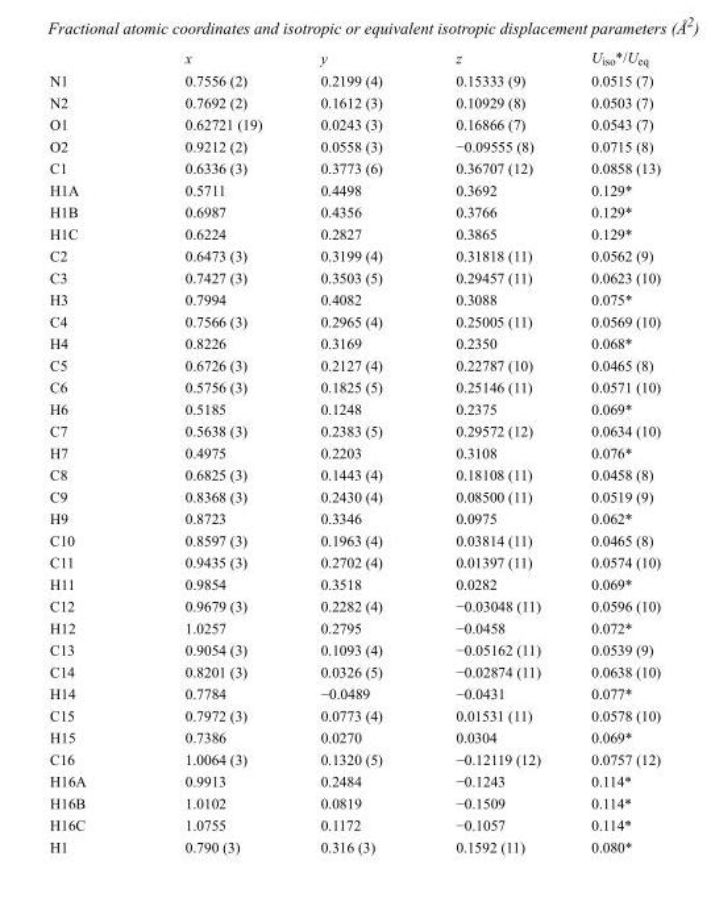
<table><thead><tr><td></td><td>x</td><td>y</td><td>z</td><td>U<sub>iso</sub>*/U<sub>eq</sub></td></tr></thead><tbody><tr><td>N1</td><td>0.7556 (2)</td><td>0.2199 (4)</td><td>0.15333 (9)</td><td>0.0515 (7)</td></tr><tr><td>N2</td><td>0.7692 (2)</td><td>0.1612 (3)</td><td>0.10929 (8)</td><td>0.0503 (7)</td></tr><tr><td>O1</td><td>0.62721 (19)</td><td>0.0243 (3)</td><td>0.16866 (7)</td><td>0.0543 (7)</td></tr><tr><td>O2</td><td>0.9212 (2)</td><td>0.0558 (3)</td><td>−0.09555 (8)</td><td>0.0715 (8)</td></tr><tr><td>C1</td><td>0.6336 (3)</td><td>0.3773 (6)</td><td>0.36707 (12)</td><td>0.0858 (13)</td></tr><tr><td>H1A</td><td>0.5711</td><td>0.4498</td><td>0.3692</td><td>0.129*</td></tr><tr><td>H1B</td><td>0.6987</td><td>0.4356</td><td>0.3766</td><td>0.129*</td></tr><tr><td>H1C</td><td>0.6224</td><td>0.2827</td><td>0.3865</td><td>0.129*</td></tr><tr><td>C2</td><td>0.6473 (3)</td><td>0.3199 (4)</td><td>0.31818 (11)</td><td>0.0562 (9)</td></tr><tr><td>C3</td><td>0.7427 (3)</td><td>0.3503 (5)</td><td>0.29457 (11)</td><td>0.0623 (10)</td></tr><tr><td>H3</td><td>0.7994</td><td>0.4082</td><td>0.3088</td><td>0.075*</td></tr><tr><td>C4</td><td>0.7566 (3)</td><td>0.2965 (4)</td><td>0.25005 (11)</td><td>0.0569 (10)</td></tr><tr><td>H4</td><td>0.8226</td><td>0.3169</td><td>0.2350</td><td>0.068*</td></tr><tr><td>C5</td><td>0.6726 (3)</td><td>0.2127 (4)</td><td>0.22787 (10)</td><td>0.0465 (8)</td></tr><tr><td>C6</td><td>0.5756 (3)</td><td>0.1825 (5)</td><td>0.25146 (11)</td><td>0.0571 (10)</td></tr><tr><td>H6</td><td>0.5185</td><td>0.1248</td><td>0.2375</td><td>0.069*</td></tr><tr><td>C7</td><td>0.5638 (3)</td><td>0.2383 (5)</td><td>0.29572 (12)</td><td>0.0634 (10)</td></tr><tr><td>H7</td><td>0.4975</td><td>0.2203</td><td>0.3108</td><td>0.076*</td></tr><tr><td>C8</td><td>0.6825 (3)</td><td>0.1443 (4)</td><td>0.18108 (11)</td><td>0.0458 (8)</td></tr><tr><td>C9</td><td>0.8368 (3)</td><td>0.2430 (4)</td><td>0.08500 (11)</td><td>0.0519 (9)</td></tr><tr><td>H9</td><td>0.8723</td><td>0.3346</td><td>0.0975</td><td>0.062*</td></tr><tr><td>C10</td><td>0.8597 (3)</td><td>0.1963 (4)</td><td>0.03814 (11)</td><td>0.0465 (8)</td></tr><tr><td>C11</td><td>0.9435 (3)</td><td>0.2702 (4)</td><td>0.01397 (11)</td><td>0.0574 (10)</td></tr><tr><td>H11</td><td>0.9854</td><td>0.3518</td><td>0.0282</td><td>0.069*</td></tr><tr><td>C12</td><td>0.9679 (3)</td><td>0.2282 (4)</td><td>−0.03048 (11)</td><td>0.0596 (10)</td></tr><tr><td>H12</td><td>1.0257</td><td>0.2795</td><td>−0.0458</td><td>0.072*</td></tr><tr><td>C13</td><td>0.9054 (3)</td><td>0.1093 (4)</td><td>−0.05162 (11)</td><td>0.0539 (9)</td></tr><tr><td>C14</td><td>0.8201 (3)</td><td>0.0326 (5)</td><td>−0.02874 (11)</td><td>0.0638 (10)</td></tr><tr><td>H14</td><td>0.7784</td><td>−0.0489</td><td>−0.0431</td><td>0.077*</td></tr><tr><td>C15</td><td>0.7972 (3)</td><td>0.0773 (4)</td><td>0.01531 (11)</td><td>0.0578 (10)</td></tr><tr><td>H15</td><td>0.7386</td><td>0.0270</td><td>0.0304</td><td>0.069*</td></tr><tr><td>C16</td><td>1.0064 (3)</td><td>0.1320 (5)</td><td>−0.12119 (12)</td><td>0.0757 (12)</td></tr><tr><td>H16A</td><td>0.9913</td><td>0.2484</td><td>−0.1243</td><td>0.114*</td></tr><tr><td>H16B</td><td>1.0102</td><td>0.0819</td><td>−0.1509</td><td>0.114*</td></tr><tr><td>H16C</td><td>1.0755</td><td>0.1172</td><td>−0.1057</td><td>0.114*</td></tr><tr><td>H1</td><td>0.790 (3)</td><td>0.316 (3)</td><td>0.1592 (11)</td><td>0.080*</td></tr></tbody></table>